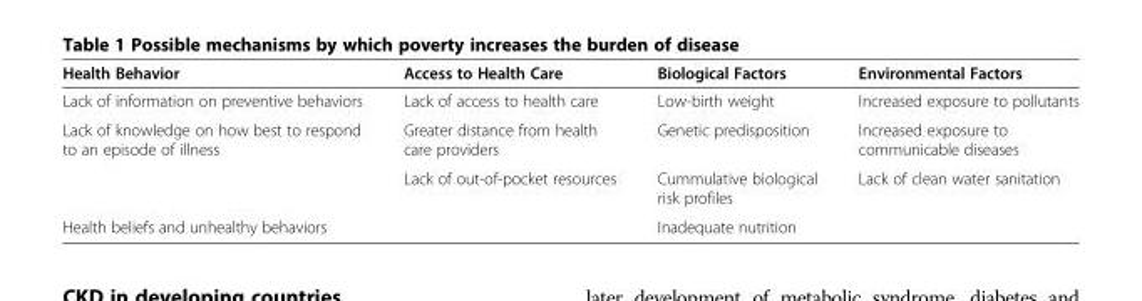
<table><thead><tr><td>Health Behavior</td><td>Access to Health Care</td><td>Biological Factors</td><td>Environmental Factors</td></tr></thead><tbody><tr><td>Lack of information on preventive behaviors</td><td>Lack of access to health care</td><td>Low-birth weight</td><td>Increased exposure to pollutants</td></tr><tr><td rowspan="2">Lack of knowledge on how best to respond to an episode of illness</td><td>Greater distance from health care providers</td><td>Genetic predisposition</td><td>Increased exposure to communicable diseases</td></tr><tr><td>Lack of out-of-pocket resources</td><td>Cummulative biological risk profiles</td><td>Lack of clean water sanitation</td></tr><tr><td>Health beliefs and unhealthy behaviors</td><td></td><td>Inadequate nutrition</td><td></td></tr></tbody></table>